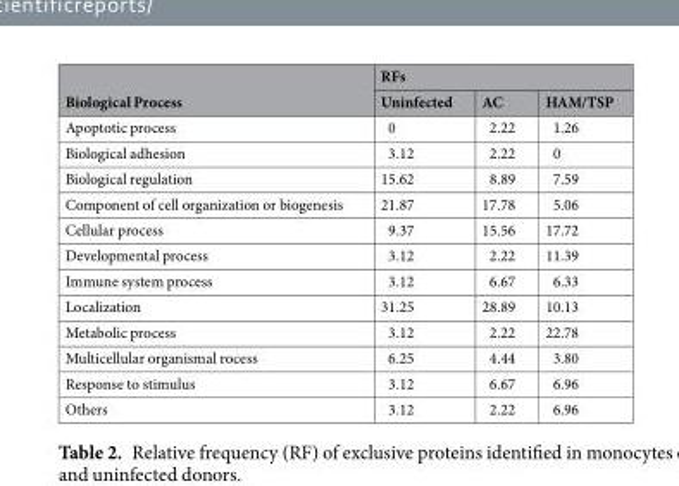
<table><thead><tr><td rowspan="2">Biological Process</td><td colspan="3">RFs</td></tr><tr><td>Uninfected</td><td>AC</td><td>HAM/TSP</td></tr></thead><tbody><tr><td>Apoptotic process</td><td>0</td><td>2.22</td><td>1.26</td></tr><tr><td>Biological adhesion</td><td>3.12</td><td>2.22</td><td>0</td></tr><tr><td>Biological regulation</td><td>15.62</td><td>8.89</td><td>7.59</td></tr><tr><td>Component of cell organization or biogenesis</td><td>21.87</td><td>17.78</td><td>5.06</td></tr><tr><td>Cellular process</td><td>9.37</td><td>15.56</td><td>17.72</td></tr><tr><td>Developmental process</td><td>3.12</td><td>2.22</td><td>11.39</td></tr><tr><td>Immune system process</td><td>3.12</td><td>6.67</td><td>6.33</td></tr><tr><td>Localization</td><td>31.25</td><td>28.89</td><td>10.13</td></tr><tr><td>Metabolic process</td><td>3.12</td><td>2.22</td><td>22.78</td></tr><tr><td>Multicellular organismal rocess</td><td>6.25</td><td>4.44</td><td>3.80</td></tr><tr><td>Response to stimulus</td><td>3.12</td><td>6.67</td><td>6.96</td></tr><tr><td>Others</td><td>3.12</td><td>2.22</td><td>6.96</td></tr></tbody></table>